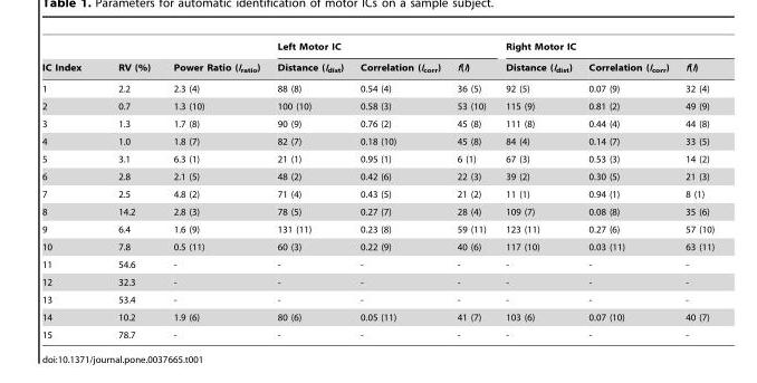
<table><thead><tr><td rowspan="2">IC Index</td><td rowspan="2">RV (%)</td><td rowspan="2">Power Ratio (I<sub>ratio</sub>)</td><td colspan="3">Left Motor IC</td><td colspan="3">Right Motor IC</td></tr><tr><td>Distance (I<sub>dist</sub>)</td><td>Correlation (I<sub>corr</sub>)</td><td>f(I)</td><td>Distance (I<sub>dist</sub>)</td><td>Correlation (I<sub>corr</sub>)</td><td>f(I)</td></tr></thead><tbody><tr><td>1</td><td>2.2</td><td>2.3 (4)</td><td>88 (8)</td><td>0.54 (4)</td><td>36 (5)</td><td>92 (5)</td><td>0.07 (9)</td><td>32 (4)</td></tr><tr><td>2</td><td>0.7</td><td>1.3 (10)</td><td>100 (10)</td><td>0.58 (3)</td><td>53 (10)</td><td>115 (9)</td><td>0.81 (2)</td><td>49 (9)</td></tr><tr><td>3</td><td>1.3</td><td>1.7 (8)</td><td>90 (9)</td><td>0.76 (2)</td><td>45 (8)</td><td>111 (8)</td><td>0.44 (4)</td><td>44 (8)</td></tr><tr><td>4</td><td>1.0</td><td>1.8 (7)</td><td>82 (7)</td><td>0.18 (10)</td><td>45 (8)</td><td>84 (4)</td><td>0.14 (7)</td><td>33 (5)</td></tr><tr><td>5</td><td>3.1</td><td>6.3 (1)</td><td>21 (1)</td><td>0.95 (1)</td><td>6 (1)</td><td>67 (3)</td><td>0.53 (3)</td><td>14 (2)</td></tr><tr><td>6</td><td>2.8</td><td>2.1 (5)</td><td>48 (2)</td><td>0.42 (6)</td><td>22 (3)</td><td>39 (2)</td><td>0.30 (5)</td><td>21 (3)</td></tr><tr><td>7</td><td>2.5</td><td>4.8 (2)</td><td>71 (4)</td><td>0.43 (5)</td><td>21 (2)</td><td>11 (1)</td><td>0.94 (1)</td><td>8 (1)</td></tr><tr><td>8</td><td>14.2</td><td>2.8 (3)</td><td>78 (5)</td><td>0.27 (7)</td><td>28 (4)</td><td>109 (7)</td><td>0.08 (8)</td><td>35 (6)</td></tr><tr><td>9</td><td>6.4</td><td>1.6 (9)</td><td>131 (11)</td><td>0.23 (8)</td><td>59 (11)</td><td>123 (11)</td><td>0.27 (6)</td><td>57 (10)</td></tr><tr><td>10</td><td>7.8</td><td>0.5 (11)</td><td>60 (3)</td><td>0.22 (9)</td><td>40 (6)</td><td>117 (10)</td><td>0.03 (11)</td><td>63 (11)</td></tr><tr><td>11</td><td>54.6</td><td>-</td><td>-</td><td>-</td><td>-</td><td>-</td><td>-</td><td>-</td></tr><tr><td>12</td><td>32.3</td><td>-</td><td>-</td><td>-</td><td>-</td><td>-</td><td>-</td><td>-</td></tr><tr><td>13</td><td>53.4</td><td>-</td><td>-</td><td>-</td><td>-</td><td>-</td><td>-</td><td>-</td></tr><tr><td>14</td><td>10.2</td><td>1.9 (6)</td><td>80 (6)</td><td>0.05 (11)</td><td>41 (7)</td><td>103 (6)</td><td>0.07 (10)</td><td>40 (7)</td></tr><tr><td>15</td><td>78.7</td><td>-</td><td>-</td><td>-</td><td>-</td><td>-</td><td>-</td><td>-</td></tr></tbody></table>